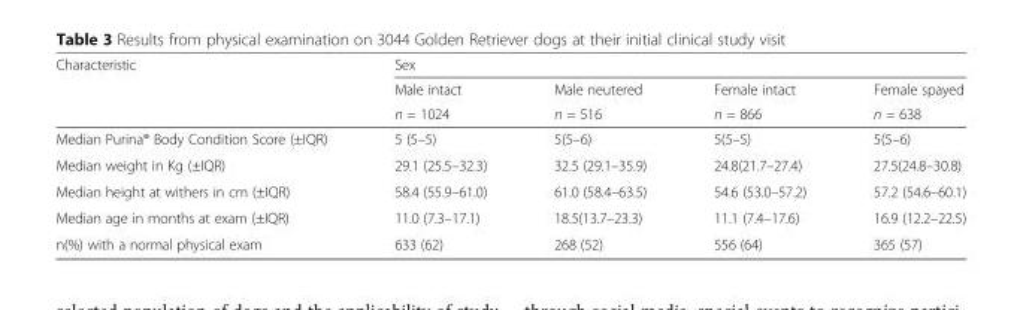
<table><thead><tr><td rowspan="3">Characteristic</td><td colspan="4">Sex</td></tr><tr><td rowspan="2">Male intact n = 1024</td><td rowspan="2">Male neutered n = 516</td><td rowspan="2">Female intact n = 866</td><td rowspan="2">Female spayed n = 638</td></tr><tr></tr></thead><tbody><tr><td>Median Purina® Body Condition Score (±IQR)</td><td>5 (5–5)</td><td>5(5–6)</td><td>5(5–5)</td><td>5(5–6)</td></tr><tr><td>Median weight in Kg (±IQR)</td><td>29.1 (25.5–32.3)</td><td>32.5 (29.1–35.9)</td><td>24.8(21.7–27.4)</td><td>27.5(24.8–30.8)</td></tr><tr><td>Median height at withers in cm (±IQR)</td><td>58.4 (55.9–61.0)</td><td>61.0 (58.4–63.5)</td><td>54.6 (53.0–57.2)</td><td>57.2 (54.6–60.1)</td></tr><tr><td>Median age in months at exam (±IQR)</td><td>11.0 (7.3–17.1)</td><td>18.5(13.7–23.3)</td><td>11.1 (7.4–17.6)</td><td>16.9 (12.2–22.5)</td></tr><tr><td>n(%) with a normal physical exam</td><td>633 (62)</td><td>268 (52)</td><td>556 (64)</td><td>365 (57)</td></tr></tbody></table>